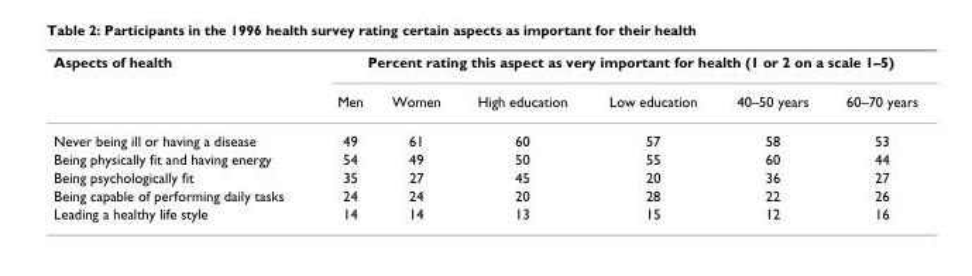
<table><thead><tr><td rowspan="2">Aspects of health</td><td colspan="6">Percent rating this aspect as very important for health (1 or 2 on a scale 1–5)</td></tr><tr><td>Men</td><td>Women</td><td>High education</td><td>Low education</td><td>40–50 years</td><td>60–70 years</td></tr></thead><tbody><tr><td>Never being ill or having a disease</td><td>49</td><td>61</td><td>60</td><td>57</td><td>58</td><td>53</td></tr><tr><td>Being physically fit and having energy</td><td>54</td><td>49</td><td>50</td><td>55</td><td>60</td><td>44</td></tr><tr><td>Being psychologically fit</td><td>35</td><td>27</td><td>45</td><td>20</td><td>36</td><td>27</td></tr><tr><td>Being capable of performing daily tasks</td><td>24</td><td>24</td><td>20</td><td>28</td><td>22</td><td>26</td></tr><tr><td>Leading a healthy life style</td><td>14</td><td>14</td><td>13</td><td>15</td><td>12</td><td>16</td></tr></tbody></table>